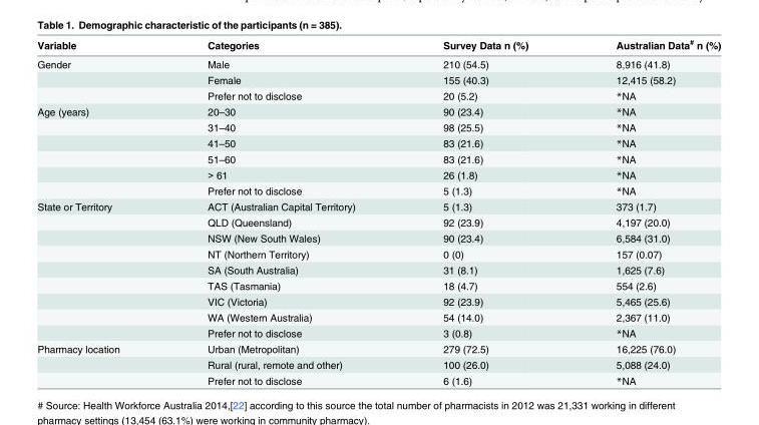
<table><thead><tr><td>Variable</td><td>Categories</td><td>Survey Data n (%)</td><td>Australian Data<sup>#</sup> n (%)</td></tr></thead><tbody><tr><td rowspan="3">Gender</td><td>Male</td><td>210 (54.5)</td><td>8,916 (41.8)</td></tr><tr><td>Female</td><td>155 (40.3)</td><td>12,415 (58.2)</td></tr><tr><td>Prefer not to disclose</td><td>20 (5.2)</td><td>*NA</td></tr><tr><td rowspan="6">Age (years)</td><td>20–30</td><td>90 (23.4)</td><td>*NA</td></tr><tr><td>31–40</td><td>98 (25.5)</td><td>*NA</td></tr><tr><td>41–50</td><td>83 (21.6)</td><td>*NA</td></tr><tr><td>51–60</td><td>83 (21.6)</td><td>*NA</td></tr><tr><td>&gt; 61</td><td>26 (1.8)</td><td>*NA</td></tr><tr><td>Prefer not to disclose</td><td>5 (1.3)</td><td>*NA</td></tr><tr><td rowspan="9">State or Territory</td><td>ACT (Australian Capital Territory)</td><td>5 (1.3)</td><td>373 (1.7)</td></tr><tr><td>QLD (Queensland)</td><td>92 (23.9)</td><td>4,197 (20.0)</td></tr><tr><td>NSW (New South Wales)</td><td>90 (23.4)</td><td>6,584 (31.0)</td></tr><tr><td>NT (Northern Territory)</td><td>0 (0)</td><td>157 (0.07)</td></tr><tr><td>SA (South Australia)</td><td>31 (8.1)</td><td>1,625 (7.6)</td></tr><tr><td>TAS (Tasmania)</td><td>18 (4.7)</td><td>554 (2.6)</td></tr><tr><td>VIC (Victoria)</td><td>92 (23.9)</td><td>5,465 (25.6)</td></tr><tr><td>WA (Western Australia)</td><td>54 (14.0)</td><td>2,367 (11.0)</td></tr><tr><td>Prefer not to disclose</td><td>3 (0.8)</td><td>*NA</td></tr><tr><td rowspan="3">Pharmacy location</td><td>Urban (Metropolitan)</td><td>279 (72.5)</td><td>16,225 (76.0)</td></tr><tr><td>Rural (rural, remote and other)</td><td>100 (26.0)</td><td>5,088 (24.0)</td></tr><tr><td>Prefer not to disclose</td><td>6 (1.6)</td><td>*NA</td></tr></tbody></table>